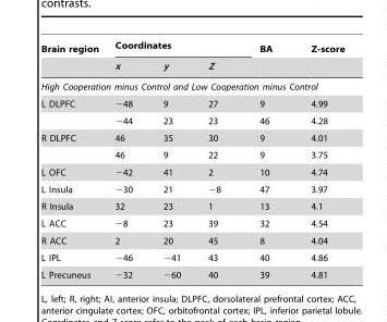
<table><thead><tr><td rowspan="2">Brain region</td><td colspan="3">Coordinates</td><td rowspan="2">BA</td><td rowspan="2">Z-score</td></tr><tr><td>x</td><td>y</td><td>Z</td></tr></thead><tbody><tr><td colspan="6">High Cooperation minus Control and Low Cooperation minus Control</td></tr><tr><td rowspan="2">L DLPFC</td><td>−48</td><td>9</td><td>27</td><td>9</td><td>4.99</td></tr><tr><td>−44</td><td>23</td><td>23</td><td>46</td><td>4.28</td></tr><tr><td rowspan="2">R DLPFC</td><td>46</td><td>35</td><td>30</td><td>9</td><td>4.01</td></tr><tr><td>46</td><td>9</td><td>22</td><td>9</td><td>3.75</td></tr><tr><td>L OFC</td><td>−42</td><td>41</td><td>2</td><td>10</td><td>4.74</td></tr><tr><td>L Insula</td><td>−30</td><td>21</td><td>−8</td><td>47</td><td>3.97</td></tr><tr><td>R Insula</td><td>32</td><td>23</td><td>1</td><td>13</td><td>4.1</td></tr><tr><td>L ACC</td><td>−8</td><td>23</td><td>39</td><td>32</td><td>4.54</td></tr><tr><td>R ACC</td><td>2</td><td>20</td><td>45</td><td>8</td><td>4.04</td></tr><tr><td>L IPL</td><td>−46</td><td>−41</td><td>43</td><td>40</td><td>4.86</td></tr><tr><td>L Precuneus</td><td>−32</td><td>−60</td><td>40</td><td>39</td><td>4.81</td></tr></tbody></table>